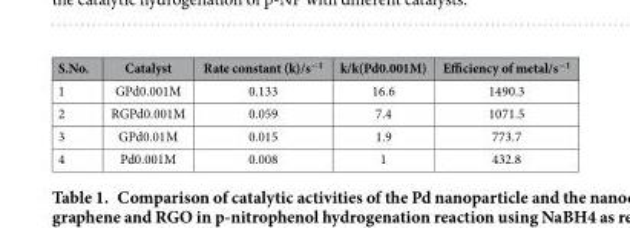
<table><thead><tr><td>S.No.</td><td>Catalyst</td><td>Rate constant (k)/s<sup>−1</sup></td><td>k/k(Pd0.001M)</td><td>Efficiency of metal/s<sup>−1</sup></td></tr></thead><tbody><tr><td>1</td><td>GPd0.001M</td><td>0.133</td><td>16.6</td><td>1490.3</td></tr><tr><td>2</td><td>RGPd0.001M</td><td>0.059</td><td>7.4</td><td>1071.5</td></tr><tr><td>3</td><td>GPd0.01M</td><td>0.015</td><td>1.9</td><td>773.7</td></tr><tr><td>4</td><td>Pd0.001M</td><td>0.008</td><td>1</td><td>432.8</td></tr></tbody></table>